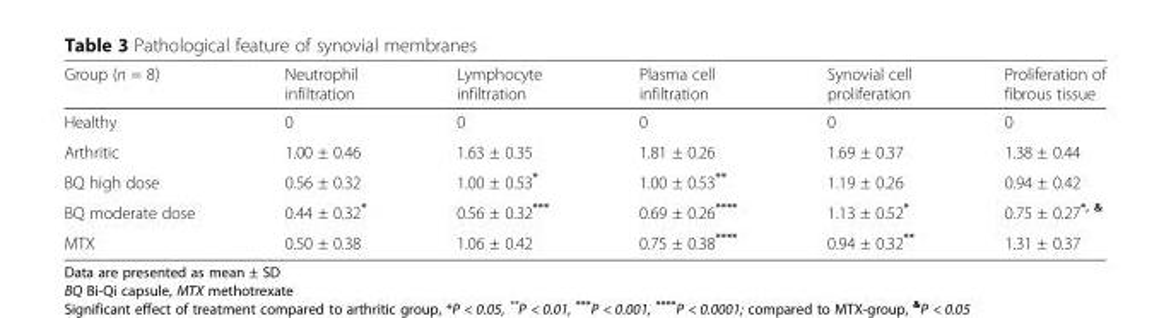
<table><thead><tr><td>Group (n = 8)</td><td>Neutrophil infiltration</td><td>Lymphocyte infiltration</td><td>Plasma cell infiltration</td><td>Synovial cell proliferation</td><td>Proliferation of fibrous tissue</td></tr></thead><tbody><tr><td>Healthy</td><td>0</td><td>0</td><td>0</td><td>0</td><td>0</td></tr><tr><td>Arthritic</td><td>1.00 ± 0.46</td><td>1.63 ± 0.35</td><td>1.81 ± 0.26</td><td>1.69 ± 0.37</td><td>1.38 ± 0.44</td></tr><tr><td>BQ high dose</td><td>0.56 ± 0.32</td><td>1.00 ± 0.53*</td><td>1.00 ± 0.53**</td><td>1.19 ± 0.26</td><td>0.94 ± 0.42</td></tr><tr><td>BQ moderate dose</td><td>0.44 ± 0.32*</td><td>0.56 ± 0.32***</td><td>0.69 ± 0.26****</td><td>1.13 ± 0.52*</td><td>0.75 ± 0.27<sup>*, &amp;</sup></td></tr><tr><td>MTX</td><td>0.50 ± 0.38</td><td>1.06 ± 0.42</td><td>0.75 ± 0.38****</td><td>0.94 ± 0.32**</td><td>1.31 ± 0.37</td></tr></tbody></table>